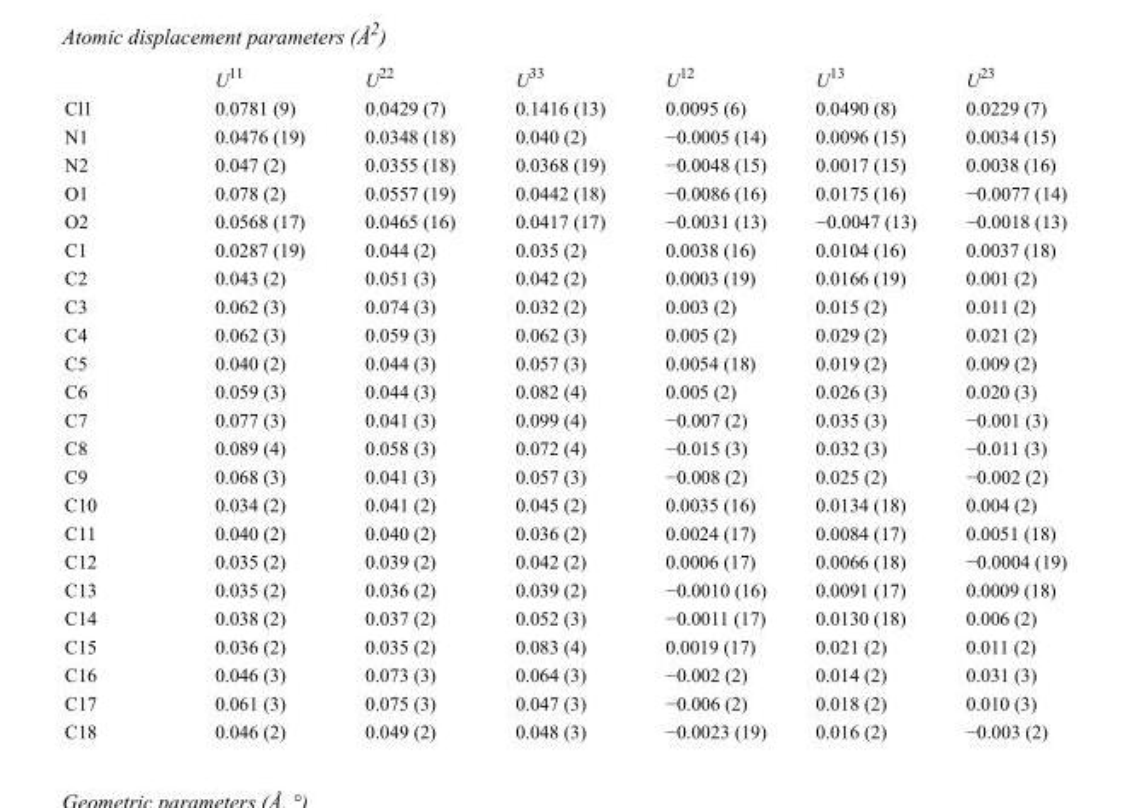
<table><thead><tr><td></td><td>U<sup>11</sup></td><td>U<sup>22</sup></td><td>U<sup>33</sup></td><td>U<sup>12</sup></td><td>U<sup>13</sup></td><td>U<sup>23</sup></td></tr></thead><tbody><tr><td>Cl1</td><td>0.0781 (9)</td><td>0.0429 (7)</td><td>0.1416 (13)</td><td>0.0095 (6)</td><td>0.0490 (8)</td><td>0.0229 (7)</td></tr><tr><td>N1</td><td>0.0476 (19)</td><td>0.0348 (18)</td><td>0.040 (2)</td><td>−0.0005 (14)</td><td>0.0096 (15)</td><td>0.0034 (15)</td></tr><tr><td>N2</td><td>0.047 (2)</td><td>0.0355 (18)</td><td>0.0368 (19)</td><td>−0.0048 (15)</td><td>0.0017 (15)</td><td>0.0038 (16)</td></tr><tr><td>O1</td><td>0.078 (2)</td><td>0.0557 (19)</td><td>0.0442 (18)</td><td>−0.0086 (16)</td><td>0.0175 (16)</td><td>−0.0077 (14)</td></tr><tr><td>O2</td><td>0.0568 (17)</td><td>0.0465 (16)</td><td>0.0417 (17)</td><td>−0.0031 (13)</td><td>−0.0047 (13)</td><td>−0.0018 (13)</td></tr><tr><td>C1</td><td>0.0287 (19)</td><td>0.044 (2)</td><td>0.035 (2)</td><td>0.0038 (16)</td><td>0.0104 (16)</td><td>0.0037 (18)</td></tr><tr><td>C2</td><td>0.043 (2)</td><td>0.051 (3)</td><td>0.042 (2)</td><td>0.0003 (19)</td><td>0.0166 (19)</td><td>0.001 (2)</td></tr><tr><td>C3</td><td>0.062 (3)</td><td>0.074 (3)</td><td>0.032 (2)</td><td>0.003 (2)</td><td>0.015 (2)</td><td>0.011 (2)</td></tr><tr><td>C4</td><td>0.062 (3)</td><td>0.059 (3)</td><td>0.062 (3)</td><td>0.005 (2)</td><td>0.029 (2)</td><td>0.021 (2)</td></tr><tr><td>C5</td><td>0.040 (2)</td><td>0.044 (3)</td><td>0.057 (3)</td><td>0.0054 (18)</td><td>0.019 (2)</td><td>0.009 (2)</td></tr><tr><td>C6</td><td>0.059 (3)</td><td>0.044 (3)</td><td>0.082 (4)</td><td>0.005 (2)</td><td>0.026 (3)</td><td>0.020 (3)</td></tr><tr><td>C7</td><td>0.077 (3)</td><td>0.041 (3)</td><td>0.099 (4)</td><td>−0.007 (2)</td><td>0.035 (3)</td><td>−0.001 (3)</td></tr><tr><td>C8</td><td>0.089 (4)</td><td>0.058 (3)</td><td>0.072 (4)</td><td>−0.015 (3)</td><td>0.032 (3)</td><td>−0.011 (3)</td></tr><tr><td>C9</td><td>0.068 (3)</td><td>0.041 (3)</td><td>0.057 (3)</td><td>−0.008 (2)</td><td>0.025 (2)</td><td>−0.002 (2)</td></tr><tr><td>C10</td><td>0.034 (2)</td><td>0.041 (2)</td><td>0.045 (2)</td><td>0.0035 (16)</td><td>0.0134 (18)</td><td>0.004 (2)</td></tr><tr><td>C11</td><td>0.040 (2)</td><td>0.040 (2)</td><td>0.036 (2)</td><td>0.0024 (17)</td><td>0.0084 (17)</td><td>0.0051 (18)</td></tr><tr><td>C12</td><td>0.035 (2)</td><td>0.039 (2)</td><td>0.042 (2)</td><td>0.0006 (17)</td><td>0.0066 (18)</td><td>−0.0004 (19)</td></tr><tr><td>C13</td><td>0.035 (2)</td><td>0.036 (2)</td><td>0.039 (2)</td><td>−0.0010 (16)</td><td>0.0091 (17)</td><td>0.0009 (18)</td></tr><tr><td>C14</td><td>0.038 (2)</td><td>0.037 (2)</td><td>0.052 (3)</td><td>−0.0011 (17)</td><td>0.0130 (18)</td><td>0.006 (2)</td></tr><tr><td>C15</td><td>0.036 (2)</td><td>0.035 (2)</td><td>0.083 (4)</td><td>0.0019 (17)</td><td>0.021 (2)</td><td>0.011 (2)</td></tr><tr><td>C16</td><td>0.046 (3)</td><td>0.073 (3)</td><td>0.064 (3)</td><td>−0.002 (2)</td><td>0.014 (2)</td><td>0.031 (3)</td></tr><tr><td>C17</td><td>0.061 (3)</td><td>0.075 (3)</td><td>0.047 (3)</td><td>−0.006 (2)</td><td>0.018 (2)</td><td>0.010 (3)</td></tr><tr><td>C18</td><td>0.046 (2)</td><td>0.049 (2)</td><td>0.048 (3)</td><td>−0.0023 (19)</td><td>0.016 (2)</td><td>−0.003 (2)</td></tr></tbody></table>